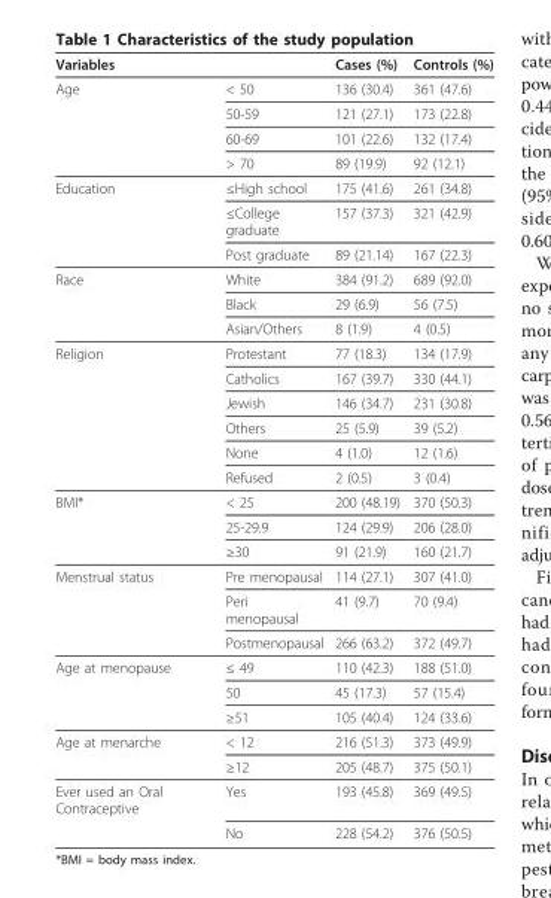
<table><thead><tr><td colspan="2">Variables</td><td rowspan="2">Cases (%) 136 (30.4)</td><td rowspan="2">Controls (%) 361 (47.6)</td></tr><tr><td>Age</td><td>&lt; 50</td></tr></thead><tbody><tr><td></td><td>50-59</td><td>121 (27.1)</td><td>173 (22.8)</td></tr><tr><td></td><td>60-69</td><td>101 (22.6)</td><td>132 (17.4)</td></tr><tr><td></td><td>&gt; 70</td><td>89 (19.9)</td><td>92 (12.1)</td></tr><tr><td rowspan="3">Education</td><td>≤High school</td><td>175 (41.6)</td><td>261 (34.8)</td></tr><tr><td>≤College graduate</td><td>157 (37.3)</td><td>321 (42.9)</td></tr><tr><td>Post graduate</td><td>89 (21.14)</td><td>167 (22.3)</td></tr><tr><td rowspan="3">Race</td><td>White</td><td>384 (91.2)</td><td>689 (92.0)</td></tr><tr><td>Black</td><td>29 (6.9)</td><td>56 (7.5)</td></tr><tr><td>Asian/Others</td><td>8 (1.9)</td><td>4 (0.5)</td></tr><tr><td rowspan="6">Religion</td><td>Protestant</td><td>77 (18.3)</td><td>134 (17.9)</td></tr><tr><td>Catholics</td><td>167 (39.7)</td><td>330 (44.1)</td></tr><tr><td>Jewish</td><td>146 (34.7)</td><td>231 (30.8)</td></tr><tr><td>Others</td><td>25 (5.9)</td><td>39 (5.2)</td></tr><tr><td>None</td><td>4 (1.0)</td><td>12 (1.6)</td></tr><tr><td>Refused</td><td>2 (0.5)</td><td>3 (0.4)</td></tr><tr><td rowspan="3">BMI*</td><td>&lt; 25</td><td>200 (48.19)</td><td>370 (50.3)</td></tr><tr><td>25-29.9</td><td>124 (29.9)</td><td>206 (28.0)</td></tr><tr><td>≥30</td><td>91 (21.9)</td><td>160 (21.7)</td></tr><tr><td rowspan="3">Menstrual status</td><td>Pre menopausal</td><td>114 (27.1)</td><td>307 (41.0)</td></tr><tr><td>Peri menopausal</td><td>41 (9.7)</td><td>70 (9.4)</td></tr><tr><td>Postmenopausal</td><td>266 (63.2)</td><td>372 (49.7)</td></tr><tr><td rowspan="3">Age at menopause</td><td>≤ 49</td><td>110 (42.3)</td><td>188 (51.0)</td></tr><tr><td>50</td><td>45 (17.3)</td><td>57 (15.4)</td></tr><tr><td>≥51</td><td>105 (40.4)</td><td>124 (33.6)</td></tr><tr><td rowspan="2">Age at menarche</td><td>&lt; 12</td><td>216 (51.3)</td><td>373 (49.9)</td></tr><tr><td>≥12</td><td>205 (48.7)</td><td>375 (50.1)</td></tr><tr><td rowspan="2">Ever used an Oral Contraceptive</td><td>Yes</td><td>193 (45.8)</td><td>369 (49.5)</td></tr><tr><td>No</td><td>228 (54.2)</td><td>376 (50.5)</td></tr></tbody></table>